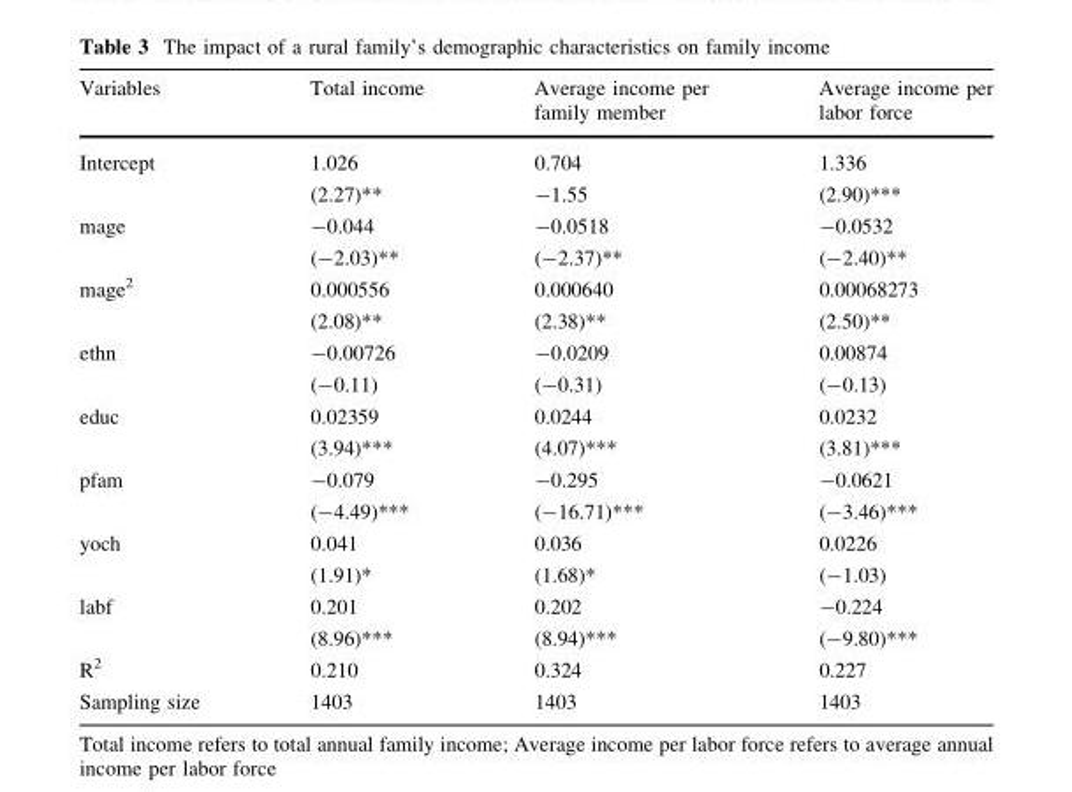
<table><thead><tr><td>Variables</td><td>Total income</td><td>Average income per family member</td><td>Average income per labor force</td></tr></thead><tbody><tr><td rowspan="2">Intercept</td><td>1.026</td><td>0.704</td><td>1.336</td></tr><tr><td>(2.27)**</td><td>-1.55</td><td>(2.90)***</td></tr><tr><td rowspan="2">mage</td><td>-0.044</td><td>-0.0518</td><td>-0.0532</td></tr><tr><td>(-2.03)**</td><td>(-2.37)**</td><td>(-2.40)**</td></tr><tr><td rowspan="2">mage<sup>2</sup></td><td>0.000556</td><td>0.000640</td><td>0.00068273</td></tr><tr><td>(2.08)**</td><td>(2.38)**</td><td>(2.50)**</td></tr><tr><td rowspan="2">ethn</td><td>-0.00726</td><td>-0.0209</td><td>0.00874</td></tr><tr><td>(-0.11)</td><td>(-0.31)</td><td>(-0.13)</td></tr><tr><td rowspan="2">educ</td><td>0.02359</td><td>0.0244</td><td>0.0232</td></tr><tr><td>(3.94)***</td><td>(4.07)***</td><td>(3.81)***</td></tr><tr><td rowspan="2">pfam</td><td>-0.079</td><td>-0.295</td><td>-0.0621</td></tr><tr><td>(-4.49)***</td><td>(-16.71)***</td><td>(-3.46)***</td></tr><tr><td rowspan="2">yoch</td><td>0.041</td><td>0.036</td><td>0.0226</td></tr><tr><td>(1.91)*</td><td>(1.68)*</td><td>(-1.03)</td></tr><tr><td rowspan="2">labf</td><td>0.201</td><td>0.202</td><td>-0.224</td></tr><tr><td>(8.96)***</td><td>(8.94)***</td><td>(-9.80)***</td></tr><tr><td>R<sup>2</sup></td><td>0.210</td><td>0.324</td><td>0.227</td></tr><tr><td>Sampling size</td><td>1403</td><td>1403</td><td>1403</td></tr></tbody></table>